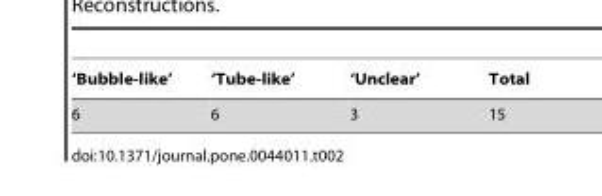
<table><thead><tr><td>‘Bubble-like’</td><td>‘Tube-like’</td><td>‘Unclear’</td><td>Total</td></tr></thead><tbody><tr><td>6</td><td>6</td><td>3</td><td>15</td></tr></tbody></table>